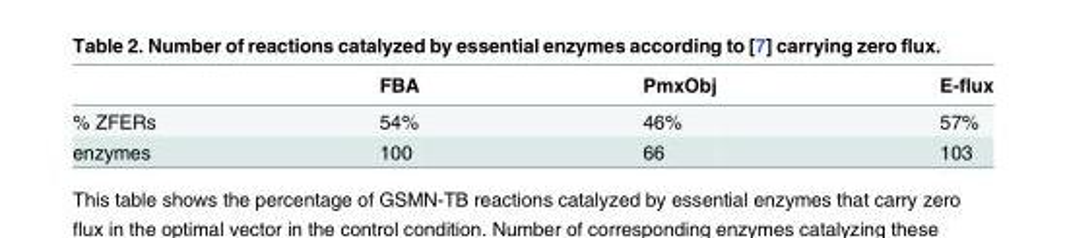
<table><thead><tr><td></td><td>FBA</td><td>PmxObj</td><td>E-flux</td></tr></thead><tbody><tr><td>% ZFERs</td><td>54%</td><td>46%</td><td>57%</td></tr><tr><td>enzymes</td><td>100</td><td>66</td><td>103</td></tr></tbody></table>